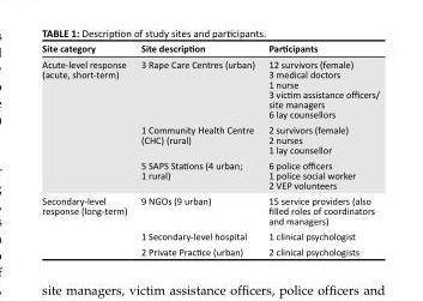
<table><thead><tr><td>Site category</td><td>Site description</td><td>Participants</td></tr></thead><tbody><tr><td rowspan="3">Acute-level response (acute, short-term)</td><td>3 Rape Care Centres (urban)</td><td>12 survivors (female) 3 medical doctors 1 nurse 3 victim assistance officers/ site managers 6 lay counsellors</td></tr><tr><td>1 Community Health Centre (CHC) (rural)</td><td>2 survivors (female) 2 nurses 1 lay counsellor</td></tr><tr><td>5 SAPS Stations (4 urban; 1 rural)</td><td>6 police officers 1 police social worker 2 VEP volunteers</td></tr><tr><td rowspan="3">Secondary-level response (long-term)</td><td>9 NGOs (9 urban)</td><td>15 service providers (also filled roles of coordinators and managers)</td></tr><tr><td>1 Secondary-level hospital</td><td>1 clinical psychologist</td></tr><tr><td>2 Private Practice (urban)</td><td>2 clinical psychologists</td></tr></tbody></table>